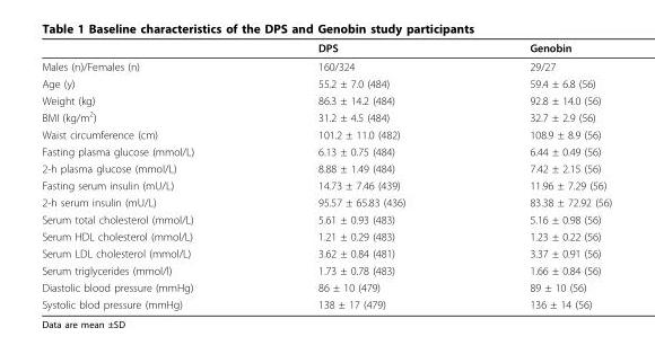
<table><thead><tr><td></td><td>DPS</td><td>Genobin</td></tr></thead><tbody><tr><td>Males (n)/Females (n)</td><td>160/324</td><td>29/27</td></tr><tr><td>Age (y)</td><td>55.2 ± 7.0 (484)</td><td>59.4 ± 6.8 (56)</td></tr><tr><td>Weight (kg)</td><td>86.3 ± 14.2 (484)</td><td>92.8 ± 14.0 (56)</td></tr><tr><td>BMI (kg/m<sup>2</sup>)</td><td>31.2 ± 4.5 (484)</td><td>32.7 ± 2.9 (56)</td></tr><tr><td>Waist circumference (cm)</td><td>101.2 ± 11.0 (482)</td><td>108.9 ± 8.9 (56)</td></tr><tr><td>Fasting plasma glucose (mmol/L)</td><td>6.13 ± 0.75 (484)</td><td>6.44 ± 0.49 (56)</td></tr><tr><td>2-h plasma glucose (mmol/L)</td><td>8.88 ± 1.49 (484)</td><td>7.42 ± 2.15 (56)</td></tr><tr><td>Fasting serum insulin (mU/L)</td><td>14.73 ± 7.46 (439)</td><td>11.96 ± 7.29 (56)</td></tr><tr><td>2-h serum insulin (mU/L)</td><td>95.57 ± 65.83 (436)</td><td>83.38 ± 72.92 (56)</td></tr><tr><td>Serum total cholesterol (mmol/L)</td><td>5.61 ± 0.93 (483)</td><td>5.16 ± 0.98 (56)</td></tr><tr><td>Serum HDL cholesterol (mmol/L)</td><td>1.21 ± 0.29 (483)</td><td>1.23 ± 0.22 (56)</td></tr><tr><td>Serum LDL cholesterol (mmol/L)</td><td>3.62 ± 0.84 (481)</td><td>3.37 ± 0.91 (56)</td></tr><tr><td>Serum triglycerides (mmol/l)</td><td>1.73 ± 0.78 (483)</td><td>1.66 ± 0.84 (56)</td></tr><tr><td>Diastolic blood pressure (mmHg)</td><td>86 ± 10 (479)</td><td>89 ± 10 (56)</td></tr><tr><td>Systolic blod pressure (mmHg)</td><td>138 ± 17 (479)</td><td>136 ± 14 (56)</td></tr></tbody></table>